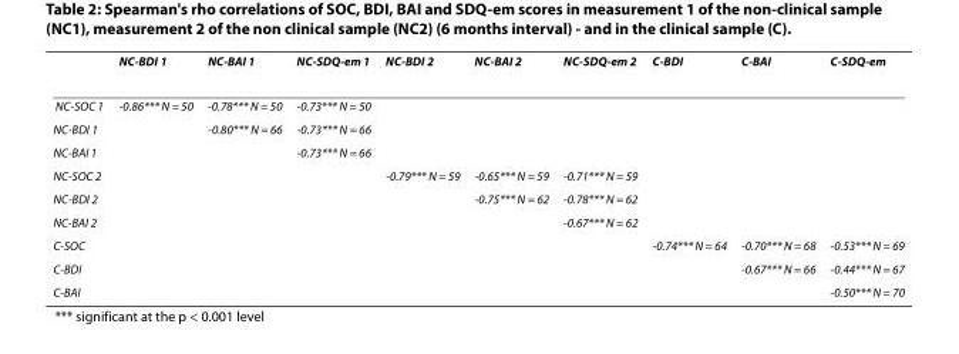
<table><thead><tr><td></td><td>NC-BDI 1</td><td>NC-BAI 1</td><td>NC-SDQ-em 1</td><td>NC-BDI 2</td><td>NC-BAI 2</td><td>NC-SDQ-em 2</td><td>C-BDI</td><td>C-BAI</td><td>C-SDQ-em</td></tr></thead><tbody><tr><td>NC-SOC 1</td><td>-0.86*** N = 50</td><td>-0.78*** N = 50</td><td>-0.73*** N = 50</td><td></td><td></td><td></td><td></td><td></td><td></td></tr><tr><td>NC-BDI 1</td><td></td><td>-0.80*** N = 66</td><td>-0.73*** N = 66</td><td></td><td></td><td></td><td></td><td></td><td></td></tr><tr><td>NC-BAI 1</td><td></td><td></td><td>-0.73*** N = 66</td><td></td><td></td><td></td><td></td><td></td><td></td></tr><tr><td>NC-SOC 2</td><td></td><td></td><td></td><td>-0.79*** N = 59</td><td>-0.65*** N = 59</td><td>-0.71*** N = 59</td><td></td><td></td><td></td></tr><tr><td>NC-BDI 2</td><td></td><td></td><td></td><td></td><td>-0.75*** N = 62</td><td>-0.78*** N = 62</td><td></td><td></td><td></td></tr><tr><td>NC-BAI 2</td><td></td><td></td><td></td><td></td><td></td><td>-0.67*** N = 62</td><td></td><td></td><td></td></tr><tr><td>C-SOC</td><td></td><td></td><td></td><td></td><td></td><td></td><td>-0.74*** N = 64</td><td>-0.70*** N = 68</td><td>-0.53*** N = 69</td></tr><tr><td>C-BDI</td><td></td><td></td><td></td><td></td><td></td><td></td><td></td><td>-0.67*** N = 66</td><td>-0.44*** N = 67</td></tr><tr><td>C-BAI</td><td></td><td></td><td></td><td></td><td></td><td></td><td></td><td></td><td>-0.50*** N = 70</td></tr></tbody></table>